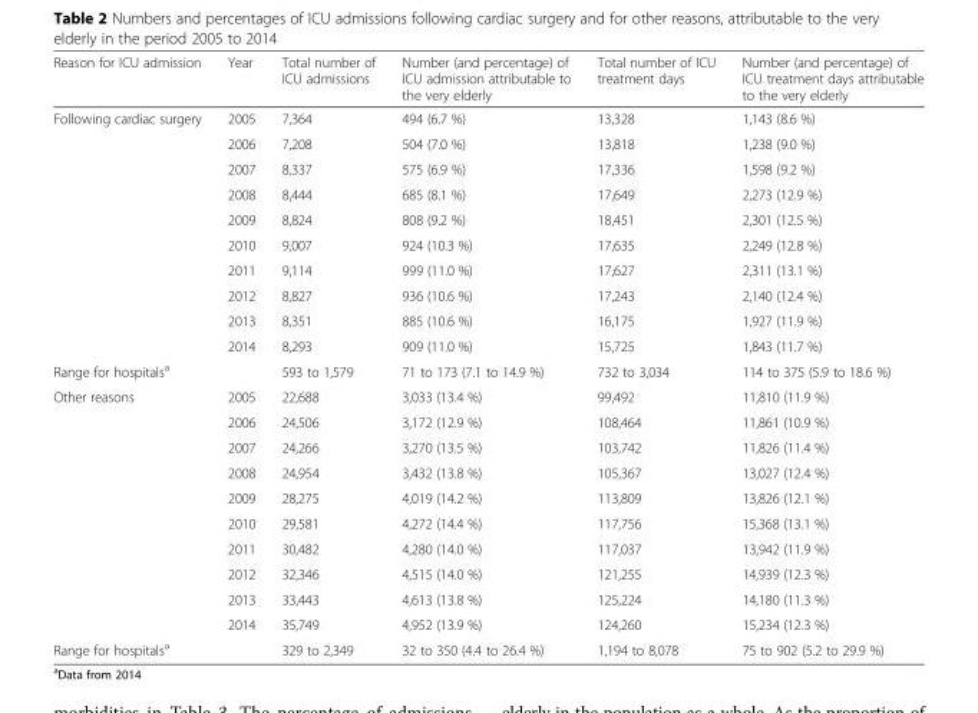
<table><thead><tr><td>Reason for ICU admission</td><td>Year</td><td>Total number of ICU admissions</td><td>Number (and percentage) of ICU admission attributable to the very elderly</td><td>Total number of ICU treatment days</td><td>Number (and percentage) of ICU treatment days attributable to the very elderly</td></tr></thead><tbody><tr><td rowspan="10">Following cardiac surgery</td><td>2005</td><td>7,364</td><td>494 (6.7 %)</td><td>13,328</td><td>1,143 (8.6 %)</td></tr><tr><td>2006</td><td>7,208</td><td>504 (7.0 %)</td><td>13,818</td><td>1,238 (9.0 %)</td></tr><tr><td>2007</td><td>8,337</td><td>575 (6.9 %)</td><td>17,336</td><td>1,598 (9.2 %)</td></tr><tr><td>2008</td><td>8,444</td><td>685 (8.1 %)</td><td>17,649</td><td>2,273 (12.9 %)</td></tr><tr><td>2009</td><td>8,824</td><td>808 (9.2 %)</td><td>18,451</td><td>2,301 (12.5 %)</td></tr><tr><td>2010</td><td>9,007</td><td>924 (10.3 %)</td><td>17,635</td><td>2,249 (12.8 %)</td></tr><tr><td>2011</td><td>9,114</td><td>999 (11.0 %)</td><td>17,627</td><td>2,311 (13.1 %)</td></tr><tr><td>2012</td><td>8,827</td><td>936 (10.6 %)</td><td>17,243</td><td>2,140 (12.4 %)</td></tr><tr><td>2013</td><td>8,351</td><td>885 (10.6 %)</td><td>16,175</td><td>1,927 (11.9 %)</td></tr><tr><td>2014</td><td>8,293</td><td>909 (11.0 %)</td><td>15,725</td><td>1,843 (11.7 %)</td></tr><tr><td>Range for hospitals<sup>a</sup></td><td></td><td>593 to 1,579</td><td>71 to 173 (7.1 to 14.9 %)</td><td>732 to 3,034</td><td>114 to 375 (5.9 to 18.6 %)</td></tr><tr><td rowspan="10">Other reasons</td><td>2005</td><td>22,688</td><td>3,033 (13.4 %)</td><td>99,492</td><td>11,810 (11.9 %)</td></tr><tr><td>2006</td><td>24,506</td><td>3,172 (12.9 %)</td><td>108,464</td><td>11,861 (10.9 %)</td></tr><tr><td>2007</td><td>24,266</td><td>3,270 (13.5 %)</td><td>103,742</td><td>11,826 (11.4 %)</td></tr><tr><td>2008</td><td>24,954</td><td>3,432 (13.8 %)</td><td>105,367</td><td>13,027 (12.4 %)</td></tr><tr><td>2009</td><td>28,275</td><td>4,019 (14.2 %)</td><td>113,809</td><td>13,826 (12.1 %)</td></tr><tr><td>2010</td><td>29,581</td><td>4,272 (14.4 %)</td><td>117,756</td><td>15,368 (13.1 %)</td></tr><tr><td>2011</td><td>30,482</td><td>4,280 (14.0 %)</td><td>117,037</td><td>13,942 (11.9 %)</td></tr><tr><td>2012</td><td>32,346</td><td>4,515 (14.0 %)</td><td>121,255</td><td>14,939 (12.3 %)</td></tr><tr><td>2013</td><td>33,443</td><td>4,613 (13.8 %)</td><td>125,224</td><td>14,180 (11.3 %)</td></tr><tr><td>2014</td><td>35,749</td><td>4,952 (13.9 %)</td><td>124,260</td><td>15,234 (12.3 %)</td></tr><tr><td>Range for hospitals<sup>a</sup></td><td></td><td>329 to 2,349</td><td>32 to 350 (4.4 to 26.4 %)</td><td>1,194 to 8,078</td><td>75 to 902 (5.2 to 29.9 %)</td></tr></tbody></table>